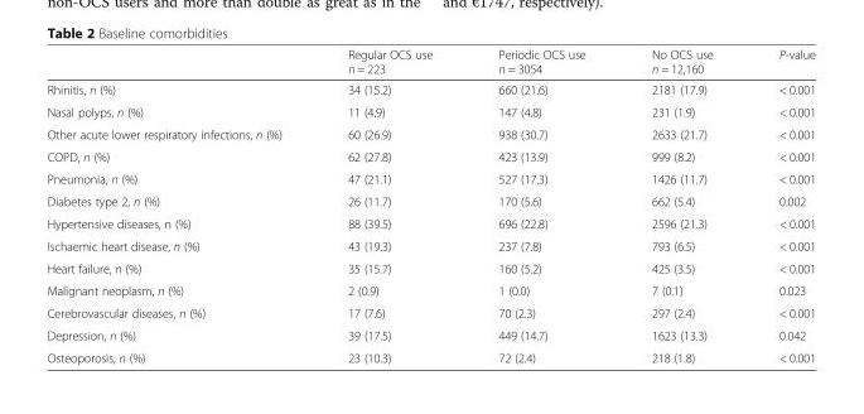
<table><thead><tr><td></td><td>Regular OCS use n = 223</td><td>Periodic OCS use n = 3054</td><td>No OCS use n = 12,160</td><td>P-value</td></tr></thead><tbody><tr><td>Rhinitis, n (%)</td><td>34 (15.2)</td><td>660 (21.6)</td><td>2181 (17.9)</td><td>&lt; 0.001</td></tr><tr><td>Nasal polyps, n (%)</td><td>11 (4.9)</td><td>147 (4.8)</td><td>231 (1.9)</td><td>&lt; 0.001</td></tr><tr><td>Other acute lower respiratory infections, n (%)</td><td>60 (26.9)</td><td>938 (30.7)</td><td>2633 (21.7)</td><td>&lt; 0.001</td></tr><tr><td>COPD, n (%)</td><td>62 (27.8)</td><td>423 (13.9)</td><td>999 (8.2)</td><td>&lt; 0.001</td></tr><tr><td>Pneumonia, n (%)</td><td>47 (21.1)</td><td>527 (17.3)</td><td>1426 (11.7)</td><td>&lt; 0.001</td></tr><tr><td>Diabetes type 2, n (%)</td><td>26 (11.7)</td><td>170 (5.6)</td><td>662 (5.4)</td><td>0.002</td></tr><tr><td>Hypertensive diseases, n (%)</td><td>88 (39.5)</td><td>696 (22.8)</td><td>2596 (21.3)</td><td>&lt; 0.001</td></tr><tr><td>Ischaemic heart disease, n (%)</td><td>43 (19.3)</td><td>237 (7.8)</td><td>793 (6.5)</td><td>&lt; 0.001</td></tr><tr><td>Heart failure, n (%)</td><td>35 (15.7)</td><td>160 (5.2)</td><td>425 (3.5)</td><td>&lt; 0.001</td></tr><tr><td>Malignant neoplasm, n (%)</td><td>2 (0.9)</td><td>1 (0.0)</td><td>7 (0.1)</td><td>0.023</td></tr><tr><td>Cerebrovascular diseases, n (%)</td><td>17 (7.6)</td><td>70 (2.3)</td><td>297 (2.4)</td><td>&lt; 0.001</td></tr><tr><td>Depression, n (%)</td><td>39 (17.5)</td><td>449 (14.7)</td><td>1623 (13.3)</td><td>0.042</td></tr><tr><td>Osteoporosis, n (%)</td><td>23 (10.3)</td><td>72 (2.4)</td><td>218 (1.8)</td><td>&lt; 0.001</td></tr></tbody></table>